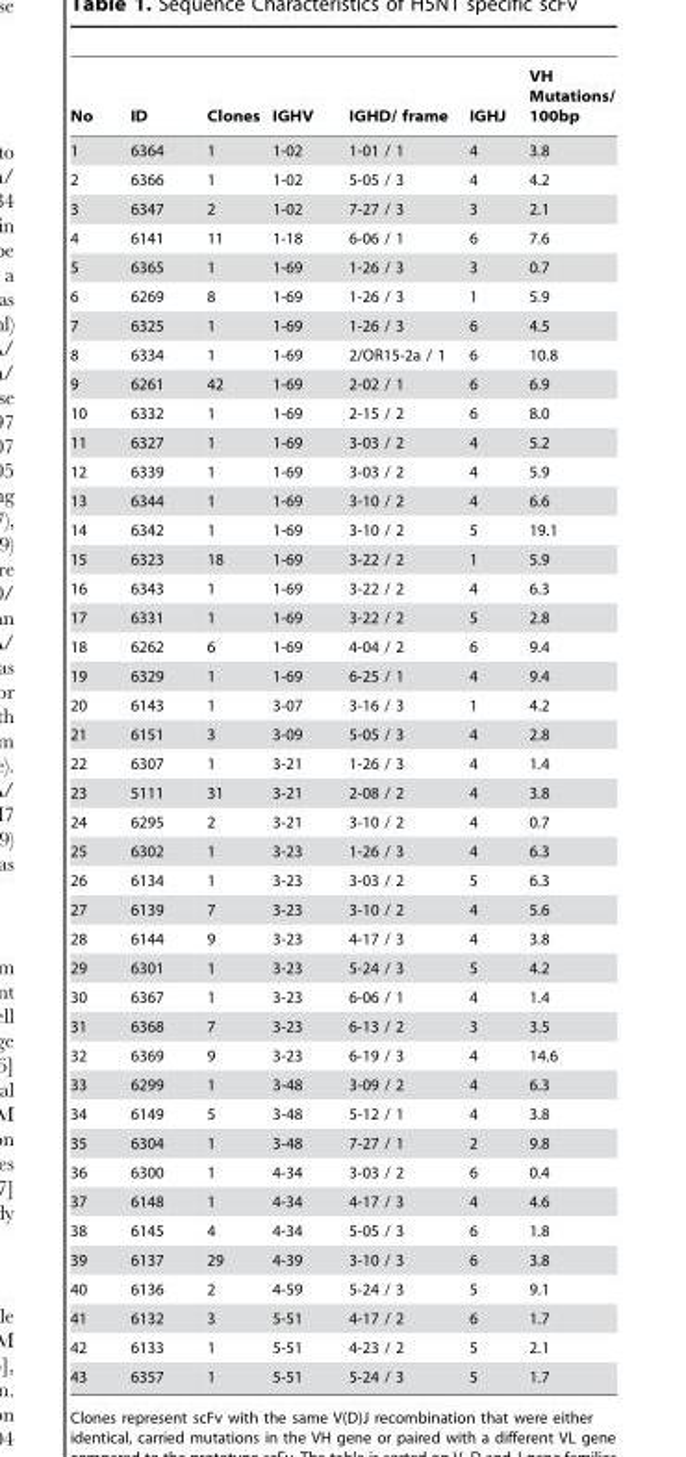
<table><thead><tr><td>No</td><td>ID</td><td>Clones</td><td>IGHV</td><td>IGHD/ frame</td><td>IGHJ</td><td>VH Mutations/ 100bp</td></tr></thead><tbody><tr><td>1</td><td>6364</td><td>1</td><td>1-02</td><td>1-01 / 1</td><td>4</td><td>3.8</td></tr><tr><td>2</td><td>6366</td><td>1</td><td>1-02</td><td>5-05 / 3</td><td>4</td><td>4.2</td></tr><tr><td>3</td><td>6347</td><td>2</td><td>1-02</td><td>7-27 / 3</td><td>3</td><td>2.1</td></tr><tr><td>4</td><td>6141</td><td>11</td><td>1-18</td><td>6-06 / 1</td><td>6</td><td>7.6</td></tr><tr><td>5</td><td>6365</td><td>1</td><td>1-69</td><td>1-26 / 3</td><td>3</td><td>0.7</td></tr><tr><td>6</td><td>6269</td><td>8</td><td>1-69</td><td>1-26 / 3</td><td>1</td><td>5.9</td></tr><tr><td>7</td><td>6325</td><td>1</td><td>1-69</td><td>1-26 / 3</td><td>6</td><td>4.5</td></tr><tr><td>8</td><td>6334</td><td>1</td><td>1-69</td><td>2/OR15-2a / 1</td><td>6</td><td>10.8</td></tr><tr><td>9</td><td>6261</td><td>42</td><td>1-69</td><td>2-02 / 1</td><td>6</td><td>6.9</td></tr><tr><td>10</td><td>6332</td><td>1</td><td>1-69</td><td>2-15 / 2</td><td>6</td><td>8.0</td></tr><tr><td>11</td><td>6327</td><td>1</td><td>1-69</td><td>3-03 / 2</td><td>4</td><td>5.2</td></tr><tr><td>12</td><td>6339</td><td>1</td><td>1-69</td><td>3-03 / 2</td><td>4</td><td>5.9</td></tr><tr><td>13</td><td>6344</td><td>1</td><td>1-69</td><td>3-10 / 2</td><td>4</td><td>6.6</td></tr><tr><td>14</td><td>6342</td><td>1</td><td>1-69</td><td>3-10 / 2</td><td>5</td><td>19.1</td></tr><tr><td>15</td><td>6323</td><td>18</td><td>1-69</td><td>3-22 / 2</td><td>1</td><td>5.9</td></tr><tr><td>16</td><td>6343</td><td>1</td><td>1-69</td><td>3-22 / 2</td><td>4</td><td>6.3</td></tr><tr><td>17</td><td>6331</td><td>1</td><td>1-69</td><td>3-22 / 2</td><td>5</td><td>2.8</td></tr><tr><td>18</td><td>6262</td><td>6</td><td>1-69</td><td>4-04 / 2</td><td>6</td><td>9.4</td></tr><tr><td>19</td><td>6329</td><td>1</td><td>1-69</td><td>6-25 / 1</td><td>4</td><td>9.4</td></tr><tr><td>20</td><td>6143</td><td>1</td><td>3-07</td><td>3-16 / 3</td><td>1</td><td>4.2</td></tr><tr><td>21</td><td>6151</td><td>3</td><td>3-09</td><td>5-05 / 3</td><td>4</td><td>2.8</td></tr><tr><td>22</td><td>6307</td><td>1</td><td>3-21</td><td>1-26 / 3</td><td>4</td><td>1.4</td></tr><tr><td>23</td><td>5111</td><td>31</td><td>3-21</td><td>2-08 / 2</td><td>4</td><td>3.8</td></tr><tr><td>24</td><td>6295</td><td>2</td><td>3-21</td><td>3-10 / 2</td><td>4</td><td>0.7</td></tr><tr><td>25</td><td>6302</td><td>1</td><td>3-23</td><td>1-26 / 3</td><td>4</td><td>6.3</td></tr><tr><td>26</td><td>6134</td><td>1</td><td>3-23</td><td>3-03 / 2</td><td>5</td><td>6.3</td></tr><tr><td>27</td><td>6139</td><td>7</td><td>3-23</td><td>3-10 / 2</td><td>4</td><td>5.6</td></tr><tr><td>28</td><td>6144</td><td>9</td><td>3-23</td><td>4-17 / 3</td><td>4</td><td>3.8</td></tr><tr><td>29</td><td>6301</td><td>1</td><td>3-23</td><td>5-24 / 3</td><td>5</td><td>4.2</td></tr><tr><td>30</td><td>6367</td><td>1</td><td>3-23</td><td>6-06 / 1</td><td>4</td><td>1.4</td></tr><tr><td>31</td><td>6368</td><td>7</td><td>3-23</td><td>6-13 / 2</td><td>3</td><td>3.5</td></tr><tr><td>32</td><td>6369</td><td>9</td><td>3-23</td><td>6-19 / 3</td><td>4</td><td>14.6</td></tr><tr><td>33</td><td>6299</td><td>1</td><td>3-48</td><td>3-09 / 2</td><td>4</td><td>6.3</td></tr><tr><td>34</td><td>6149</td><td>5</td><td>3-48</td><td>5-12 / 1</td><td>4</td><td>3.8</td></tr><tr><td>35</td><td>6304</td><td>1</td><td>3-48</td><td>7-27 / 1</td><td>2</td><td>9.8</td></tr><tr><td>36</td><td>6300</td><td>1</td><td>4-34</td><td>3-03 / 2</td><td>6</td><td>0.4</td></tr><tr><td>37</td><td>6148</td><td>1</td><td>4-34</td><td>4-17 / 3</td><td>4</td><td>4.6</td></tr><tr><td>38</td><td>6145</td><td>4</td><td>4-34</td><td>5-05 / 3</td><td>6</td><td>1.8</td></tr><tr><td>39</td><td>6137</td><td>29</td><td>4-39</td><td>3-10 / 3</td><td>6</td><td>3.8</td></tr><tr><td>40</td><td>6136</td><td>2</td><td>4-59</td><td>5-24 / 3</td><td>5</td><td>9.1</td></tr><tr><td>41</td><td>6132</td><td>3</td><td>5-51</td><td>4-17 / 2</td><td>6</td><td>1.7</td></tr><tr><td>42</td><td>6133</td><td>1</td><td>5-51</td><td>4-23 / 2</td><td>5</td><td>2.1</td></tr><tr><td>43</td><td>6357</td><td>1</td><td>5-51</td><td>5-24 / 3</td><td>5</td><td>1.7</td></tr></tbody></table>